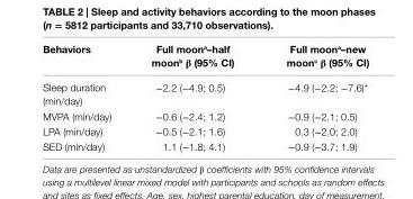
<table><thead><tr><td>Behaviors</td><td>Full moon<sup>a</sup>–half moon<sup>b</sup> β (95% ci)</td><td>Full moon<sup>a</sup>–new moon<sup>c</sup> β (95% ci)</td></tr></thead><tbody><tr><td>Sleep duration (min/day)</td><td>−2.2 (−4.9; 0.5)</td><td>−4.9 (−2.2; −7.6)*</td></tr><tr><td>MVPA (min/day)</td><td>−0.6 (−2.4; 1.2)</td><td>−0.9 (−2.1; 0.5)</td></tr><tr><td>LPA (min/day)</td><td>−0.5 (−2.1; 1.6)</td><td>0.3 (−2.0; 2.0)</td></tr><tr><td>SED (min/day)</td><td>1.1 (−1.8; 4.1)</td><td>−0.9 (−3.7; 1.9)</td></tr></tbody></table>